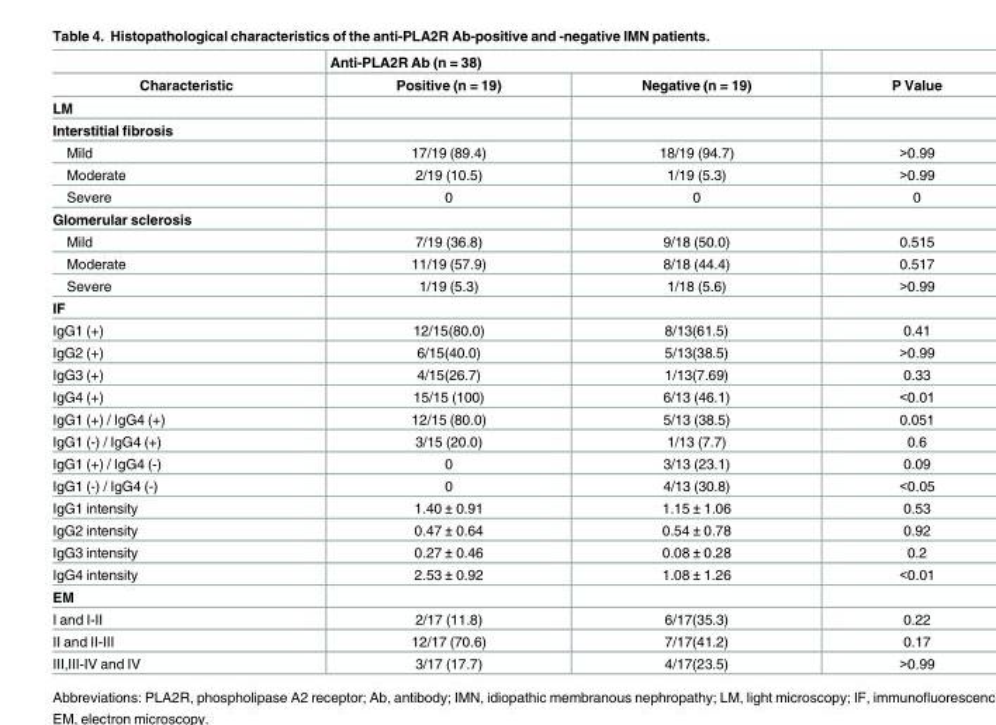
<table><thead><tr><td rowspan="2">Characteristic</td><td colspan="2">Anti-PLA2R Ab (n = 38)</td><td rowspan="2">P Value</td></tr><tr><td>Positive (n = 19)</td><td>Negative (n = 19)</td></tr></thead><tbody><tr><td colspan="4">LM</td></tr><tr><td colspan="4">Interstitial fibrosis</td></tr><tr><td>Mild</td><td>17/19 (89.4)</td><td>18/19 (94.7)</td><td>&gt;0.99</td></tr><tr><td>Moderate</td><td>2/19 (10.5)</td><td>1/19 (5.3)</td><td>&gt;0.99</td></tr><tr><td>Severe</td><td>0</td><td>0</td><td>0</td></tr><tr><td colspan="4">Glomerular sclerosis</td></tr><tr><td>Mild</td><td>7/19 (36.8)</td><td>9/18 (50.0)</td><td>0.515</td></tr><tr><td>Moderate</td><td>11/19 (57.9)</td><td>8/18 (44.4)</td><td>0.517</td></tr><tr><td>Severe</td><td>1/19 (5.3)</td><td>1/18 (5.6)</td><td>&gt;0.99</td></tr><tr><td colspan="4">IF</td></tr><tr><td>IgG1 (+)</td><td>12/15(80.0)</td><td>8/13(61.5)</td><td>0.41</td></tr><tr><td>IgG2 (+)</td><td>6/15(40.0)</td><td>5/13(38.5)</td><td>&gt;0.99</td></tr><tr><td>IgG3 (+)</td><td>4/15(26.7)</td><td>1/13(7.69)</td><td>0.33</td></tr><tr><td>IgG4 (+)</td><td>15/15 (100)</td><td>6/13 (46.1)</td><td>&lt;0.01</td></tr><tr><td>IgG1 (+) / IgG4 (+)</td><td>12/15 (80.0)</td><td>5/13 (38.5)</td><td>0.051</td></tr><tr><td>IgG1 (-) / IgG4 (+)</td><td>3/15 (20.0)</td><td>1/13 (7.7)</td><td>0.6</td></tr><tr><td>IgG1 (+) / IgG4 (-)</td><td>0</td><td>3/13 (23.1)</td><td>0.09</td></tr><tr><td>IgG1 (-) / IgG4 (-)</td><td>0</td><td>4/13 (30.8)</td><td>&lt;0.05</td></tr><tr><td>IgG1 intensity</td><td>1.40 ± 0.91</td><td>1.15 ± 1.06</td><td>0.53</td></tr><tr><td>IgG2 intensity</td><td>0.47 ± 0.64</td><td>0.54 ± 0.78</td><td>0.92</td></tr><tr><td>IgG3 intensity</td><td>0.27 ± 0.46</td><td>0.08 ± 0.28</td><td>0.2</td></tr><tr><td>IgG4 intensity</td><td>2.53 ± 0.92</td><td>1.08 ± 1.26</td><td>&lt;0.01</td></tr><tr><td colspan="4">EM</td></tr><tr><td>I and I-II</td><td>2/17 (11.8)</td><td>6/17(35.3)</td><td>0.22</td></tr><tr><td>II and II-III</td><td>12/17 (70.6)</td><td>7/17(41.2)</td><td>0.17</td></tr><tr><td>III,III-IV and IV</td><td>3/17 (17.7)</td><td>4/17(23.5)</td><td>&gt;0.99</td></tr></tbody></table>